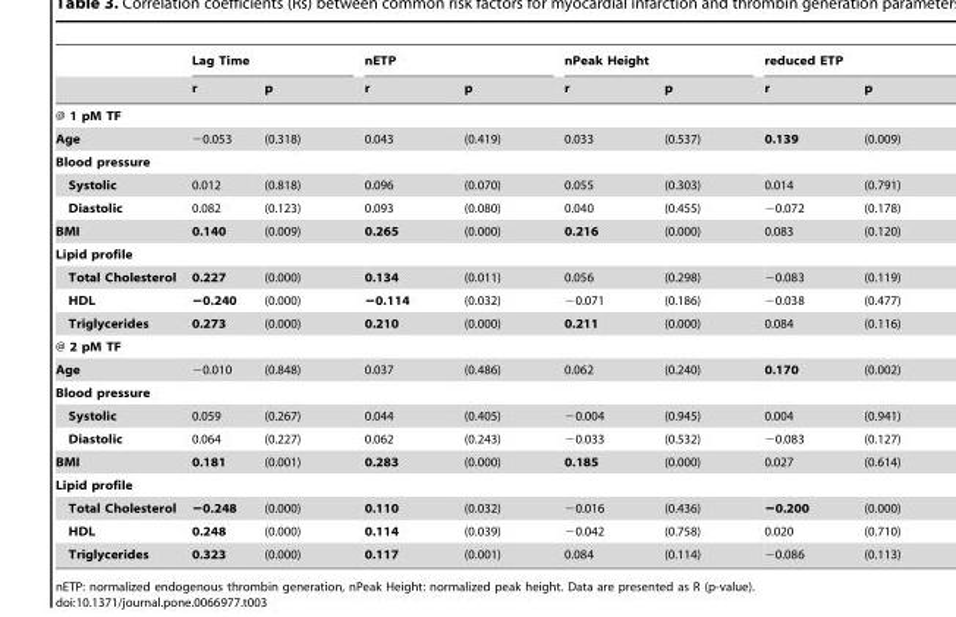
<table><thead><tr><td rowspan="2"></td><td colspan="2">Lag Time</td><td colspan="2">nETP</td><td colspan="2">nPeak Height</td><td colspan="2">reduced ETP</td></tr><tr><td>r</td><td>p</td><td>r</td><td>p</td><td>r</td><td>p</td><td>r</td><td>p</td></tr></thead><tbody><tr><td colspan="9">@ 1 pM TF</td></tr><tr><td>Age</td><td>−0.053</td><td>(0.318)</td><td>0.043</td><td>(0.419)</td><td>0.033</td><td>(0.537)</td><td>0.139</td><td>(0.009)</td></tr><tr><td colspan="9">Blood pressure</td></tr><tr><td>Systolic</td><td>0.012</td><td>(0.818)</td><td>0.096</td><td>(0.070)</td><td>0.055</td><td>(0.303)</td><td>0.014</td><td>(0.791)</td></tr><tr><td>Diastolic</td><td>0.082</td><td>(0.123)</td><td>0.093</td><td>(0.080)</td><td>0.040</td><td>(0.455)</td><td>−0.072</td><td>(0.178)</td></tr><tr><td>BMI</td><td>0.140</td><td>(0.009)</td><td>0.265</td><td>(0.000)</td><td>0.216</td><td>(0.000)</td><td>0.083</td><td>(0.120)</td></tr><tr><td colspan="9">Lipid profile</td></tr><tr><td>Total Cholesterol</td><td>0.227</td><td>(0.000)</td><td>0.134</td><td>(0.011)</td><td>0.056</td><td>(0.298)</td><td>−0.083</td><td>(0.119)</td></tr><tr><td>HDL</td><td>−0.240</td><td>(0.000)</td><td>−0.114</td><td>(0.032)</td><td>−0.071</td><td>(0.186)</td><td>−0.038</td><td>(0.477)</td></tr><tr><td>Triglycerides</td><td>0.273</td><td>(0.000)</td><td>0.210</td><td>(0.000)</td><td>0.211</td><td>(0.000)</td><td>0.084</td><td>(0.116)</td></tr><tr><td colspan="9">@ 2 pM TF</td></tr><tr><td>Age</td><td>−0.010</td><td>(0.848)</td><td>0.037</td><td>(0.486)</td><td>0.062</td><td>(0.240)</td><td>0.170</td><td>(0.002)</td></tr><tr><td colspan="9">Blood pressure</td></tr><tr><td>Systolic</td><td>0.059</td><td>(0.267)</td><td>0.044</td><td>(0.405)</td><td>−0.004</td><td>(0.945)</td><td>0.004</td><td>(0.941)</td></tr><tr><td>Diastolic</td><td>0.064</td><td>(0.227)</td><td>0.062</td><td>(0.243)</td><td>−0.033</td><td>(0.532)</td><td>−0.083</td><td>(0.127)</td></tr><tr><td>BMI</td><td>0.181</td><td>(0.001)</td><td>0.283</td><td>(0.000)</td><td>0.185</td><td>(0.000)</td><td>0.027</td><td>(0.614)</td></tr><tr><td colspan="9">Lipid profile</td></tr><tr><td>Total Cholesterol</td><td>−0.248</td><td>(0.000)</td><td>0.110</td><td>(0.032)</td><td>−0.016</td><td>(0.436)</td><td>−0.200</td><td>(0.000)</td></tr><tr><td>HDL</td><td>0.248</td><td>(0.000)</td><td>0.114</td><td>(0.039)</td><td>−0.042</td><td>(0.758)</td><td>0.020</td><td>(0.710)</td></tr><tr><td>Triglycerides</td><td>0.323</td><td>(0.000)</td><td>0.117</td><td>(0.001)</td><td>0.084</td><td>(0.114)</td><td>−0.086</td><td>(0.113)</td></tr></tbody></table>